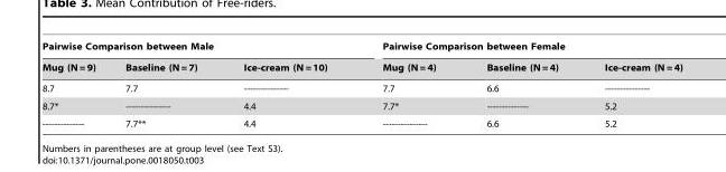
<table><thead><tr><td colspan="3">Pairwise Comparison between Male</td><td colspan="3">Pairwise Comparison between Female</td></tr><tr><td>Mug (N = 9)</td><td>Baseline (N = 7)</td><td>Ice-cream (N = 10)</td><td>Mug (N = 4)</td><td>Baseline (N = 4)</td><td>Ice-cream (N = 4)</td></tr></thead><tbody><tr><td>8.7</td><td>7.7</td><td>---------------</td><td>7.7</td><td>6.6</td><td>---------------</td></tr><tr><td>8.7*</td><td>---------------</td><td>4.4</td><td>7.7*</td><td>--------------</td><td>5.2</td></tr><tr><td>--------------</td><td>7.7**</td><td>4.4</td><td>---------------</td><td>6.6</td><td>5.2</td></tr></tbody></table>